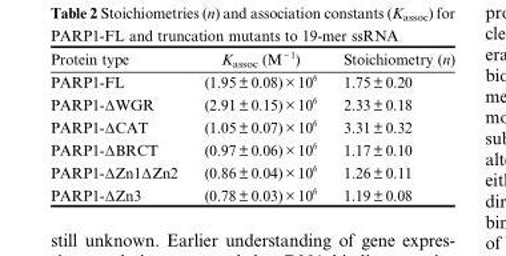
<table><thead><tr><td>Protein type</td><td>K<sub>assoc</sub> (M <sup>− 1</sup>)</td><td>Stoichiometry (n)</td></tr></thead><tbody><tr><td>PARP1-FL</td><td>(1.95 ± 0.08) × 10<sup>6</sup></td><td>1.75 ± 0.20</td></tr><tr><td>PARP1-ΔWGR</td><td>(2.91 ± 0.15) × 10<sup>6</sup></td><td>2.33 ± 0.18</td></tr><tr><td>PARP1-ΔCAT</td><td>(1.05 ± 0.07) × 10<sup>6</sup></td><td>3.31 ± 0.32</td></tr><tr><td>PARP1-ΔBRCT</td><td>(0.97 ± 0.06) × 10<sup>6</sup></td><td>1.17 ± 0.10</td></tr><tr><td>PARP1-ΔZn1ΔZn2</td><td>(0.86 ± 0.04) × 10<sup>6</sup></td><td>1.26 ± 0.11</td></tr><tr><td>PARP1-ΔZn3</td><td>(0.78 ± 0.03) × 10<sup>6</sup></td><td>1.19 ± 0.08</td></tr></tbody></table>